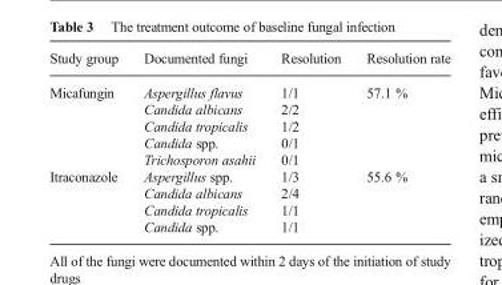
<table><thead><tr><td>Study group</td><td>Documented fungi</td><td>Resolution</td><td>Resolution rate</td></tr></thead><tbody><tr><td>Micafungin</td><td>Aspergillus flavus Candida albicans Candida tropicalis Candida spp. Trichosporon asahii</td><td>1/1 2/2 1/2 0/1 0/1</td><td>57.1 %</td></tr><tr><td>Itraconazole</td><td>Aspergillus spp. Candida albicans Candida tropicalis Candida spp.</td><td>1/3 2/4 1/1 1/1</td><td>55.6 %</td></tr></tbody></table>